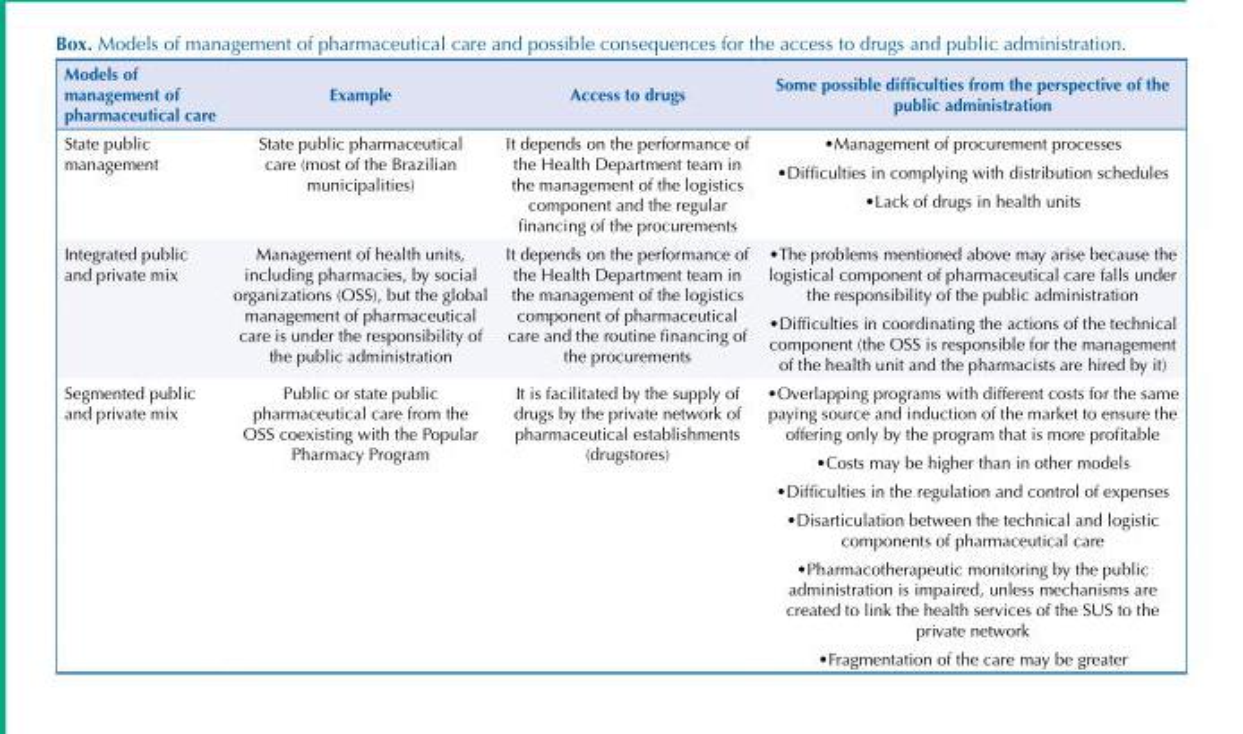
<table><thead><tr><td>Models of management of pharmaceutical care</td><td>Example</td><td>Access to drugs</td><td>Some possible difficulties from the perspective of the public administration</td></tr></thead><tbody><tr><td>State public management</td><td>State public pharmaceutical care (most of the Brazilian municipalities)</td><td>It depends on the performance of the Health Department team in the management of the logistics component and the regular financing of the procurements</td><td>•Management of procurement processes •Difficulties in complying with distribution schedules •Lack of drugs in health units</td></tr><tr><td>Integrated public and private mix</td><td>Management of health units, including pharmacies, by social organizations (OSS), but the global management of pharmaceutical care is under the responsibility of the public administration</td><td>It depends on the performance of the Health Department team in the management of the logistics component of pharmaceutical care and the routine financing of the procurements</td><td>•The problems mentioned above may arise because the logistical component of pharmaceutical care falls under the responsibility of the public administration •Difficulties in coordinating the actions of the technical component (the OSS is responsible for the management of the health unit and the pharmacists are hired by it)</td></tr><tr><td>Segmented public and private mix</td><td>Public or state public pharmaceutical care from the OSS coexisting with the Popular Pharmacy Program</td><td>It is facilitated by the supply of drugs by the private network of pharmaceutical establishments (drugstores)</td><td>•Overlapping programs with different costs for the same paying source and induction of the market to ensure the offering only by the program that is more profitable •Costs may be higher than in other models •Difficulties in the regulation and control of expenses •Disarticulation between the technical and logistic components of pharmaceutical care •Pharmacotherapeutic monitoring by the public administration is impaired, unless mechanisms are created to link the health services of the SUS to the private network •Fragmentation of the care may be greater</td></tr></tbody></table>